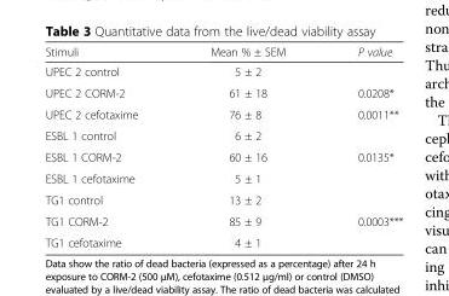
<table><thead><tr><td>Stimuli</td><td>Mean % ± SEM</td><td>P value</td></tr></thead><tbody><tr><td>UPEC 2 control</td><td>5 ± 2</td><td></td></tr><tr><td>UPEC 2 CORM-2</td><td>61 ± 18</td><td>0.0208*</td></tr><tr><td>UPEC 2 cefotaxime</td><td>76 ± 8</td><td>0.0011**</td></tr><tr><td>ESBL 1 control</td><td>6 ± 2</td><td></td></tr><tr><td>ESBL 1 CORM-2</td><td>60 ± 16</td><td>0.0135*</td></tr><tr><td>ESBL 1 cefotaxime</td><td>5 ± 1</td><td></td></tr><tr><td>TG1 control</td><td>13 ± 2</td><td></td></tr><tr><td>TG1 CORM-2</td><td>85 ± 9</td><td>0.0003***</td></tr><tr><td>TG1 cefotaxime</td><td>4 ± 1</td><td></td></tr></tbody></table>